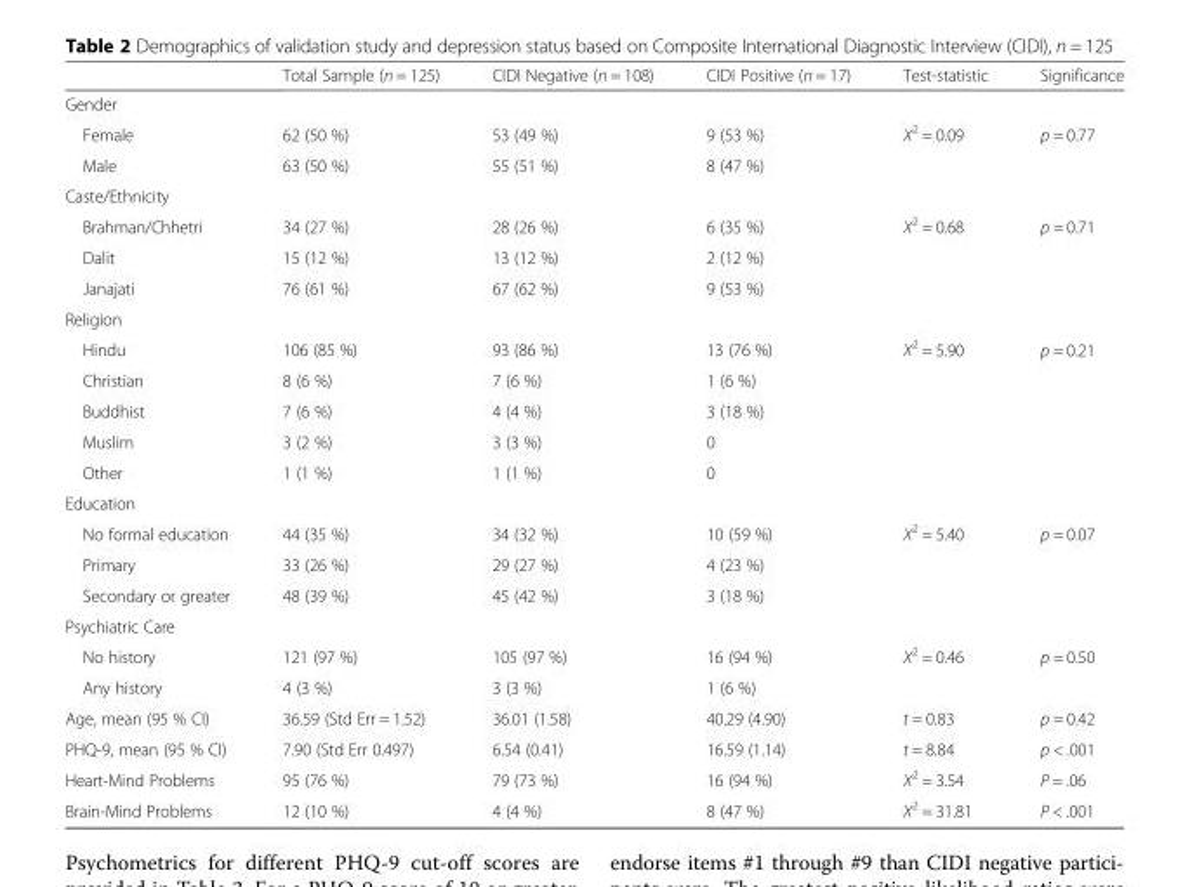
<table><thead><tr><td></td><td>Total Sample (n = 125)</td><td>CIDI Negative (n = 108)</td><td>CIDI Positive (n = 17)</td><td>Test-statistic</td><td>Significance</td></tr></thead><tbody><tr><td colspan="6">Gender</td></tr><tr><td>Female</td><td>62 (50 %)</td><td>53 (49 %)</td><td>9 (53 %)</td><td>Χ<sup>2</sup> = 0.09</td><td>p = 0.77</td></tr><tr><td>Male</td><td>63 (50 %)</td><td>55 (51 %)</td><td>8 (47 %)</td><td></td><td></td></tr><tr><td colspan="6">Caste/Ethnicity</td></tr><tr><td>Brahman/Chhetri</td><td>34 (27 %)</td><td>28 (26 %)</td><td>6 (35 %)</td><td>Χ<sup>2</sup> = 0.68</td><td>p = 0.71</td></tr><tr><td>Dalit</td><td>15 (12 %)</td><td>13 (12 %)</td><td>2 (12 %)</td><td></td><td></td></tr><tr><td>Janajati</td><td>76 (61 %)</td><td>67 (62 %)</td><td>9 (53 %)</td><td></td><td></td></tr><tr><td colspan="6">Religion</td></tr><tr><td>Hindu</td><td>106 (85 %)</td><td>93 (86 %)</td><td>13 (76 %)</td><td>Χ<sup>2</sup> = 5.90</td><td>p = 0.21</td></tr><tr><td>Christian</td><td>8 (6 %)</td><td>7 (6 %)</td><td>1 (6 %)</td><td></td><td></td></tr><tr><td>Buddhist</td><td>7 (6 %)</td><td>4 (4 %)</td><td>3 (18 %)</td><td></td><td></td></tr><tr><td>Muslim</td><td>3 (2 %)</td><td>3 (3 %)</td><td>0</td><td></td><td></td></tr><tr><td>Other</td><td>1 (1 %)</td><td>1 (1 %)</td><td>0</td><td></td><td></td></tr><tr><td colspan="6">Education</td></tr><tr><td>No formal education</td><td>44 (35 %)</td><td>34 (32 %)</td><td>10 (59 %)</td><td>Χ<sup>2</sup> = 5.40</td><td>p = 0.07</td></tr><tr><td>Primary</td><td>33 (26 %)</td><td>29 (27 %)</td><td>4 (23 %)</td><td></td><td></td></tr><tr><td>Secondary or greater</td><td>48 (39 %)</td><td>45 (42 %)</td><td>3 (18 %)</td><td></td><td></td></tr><tr><td colspan="6">Psychiatric Care</td></tr><tr><td>No history</td><td>121 (97 %)</td><td>105 (97 %)</td><td>16 (94 %)</td><td>Χ<sup>2</sup> = 0.46</td><td>p = 0.50</td></tr><tr><td>Any history</td><td>4 (3 %)</td><td>3 (3 %)</td><td>1 (6 %)</td><td></td><td></td></tr><tr><td>Age, mean (95 % CI)</td><td>36.59 (Std Err = 1.52)</td><td>36.01 (1.58)</td><td>40.29 (4.90)</td><td>t = 0.83</td><td>p = 0.42</td></tr><tr><td>PHQ-9, mean (95 % CI)</td><td>7.90 (Std Err 0.497)</td><td>6.54 (0.41)</td><td>16.59 (1.14)</td><td>t = 8.84</td><td>p &lt; .001</td></tr><tr><td>Heart-Mind Problems</td><td>95 (76 %)</td><td>79 (73 %)</td><td>16 (94 %)</td><td>Χ<sup>2</sup> = 3.54</td><td>P = .06</td></tr><tr><td>Brain-Mind Problems</td><td>12 (10 %)</td><td>4 (4 %)</td><td>8 (47 %)</td><td>Χ<sup>2</sup> = 31.81</td><td>P &lt; .001</td></tr></tbody></table>